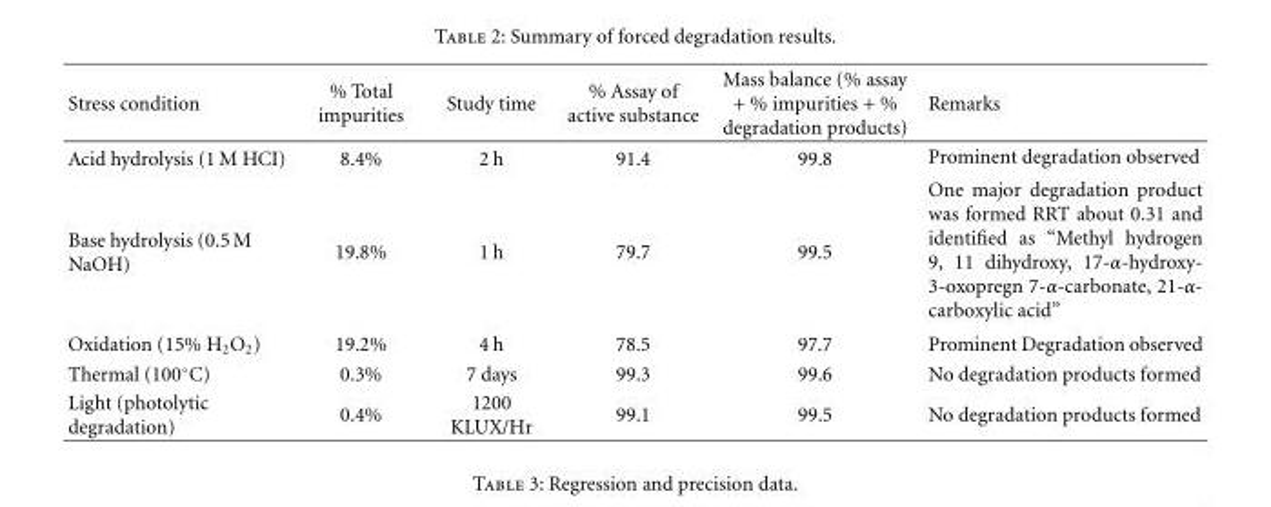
<table><thead><tr><td>Stress condition</td><td>% Total impurities</td><td>Study time</td><td>% Assay of active substance</td><td>Mass balance (% assay + % impurities + % degradation products)</td><td>Remarks</td></tr></thead><tbody><tr><td>Acid hydrolysis (1 M HCI)</td><td>8.4%</td><td>2 h</td><td>91.4</td><td>99.8</td><td>Prominent degradation observed</td></tr><tr><td>Base hydrolysis (0.5 M NaOH)</td><td>19.8%</td><td>1 h</td><td>79.7</td><td>99.5</td><td>One major degradation product was formed RRT about 0.31 and identified as “Methyl hydrogen 9, 11 dihydroxy, 17-α-hydroxy- 3-oxopregn 7-α-carbonate, 21-α- carboxylic acid”</td></tr><tr><td>Oxidation (15% H<sub>2</sub>O<sub>2</sub>)</td><td>19.2%</td><td>4 h</td><td>78.5</td><td>97.7</td><td>Prominent Degradation observed</td></tr><tr><td>Thermal (100◦C)</td><td>0.3%</td><td>7 days</td><td>99.3</td><td>99.6</td><td>No degradation products formed</td></tr><tr><td>Light (photolytic degradation)</td><td>0.4%</td><td>1200 KLUX/Hr</td><td>99.1</td><td>99.5</td><td>No degradation products formed</td></tr></tbody></table>